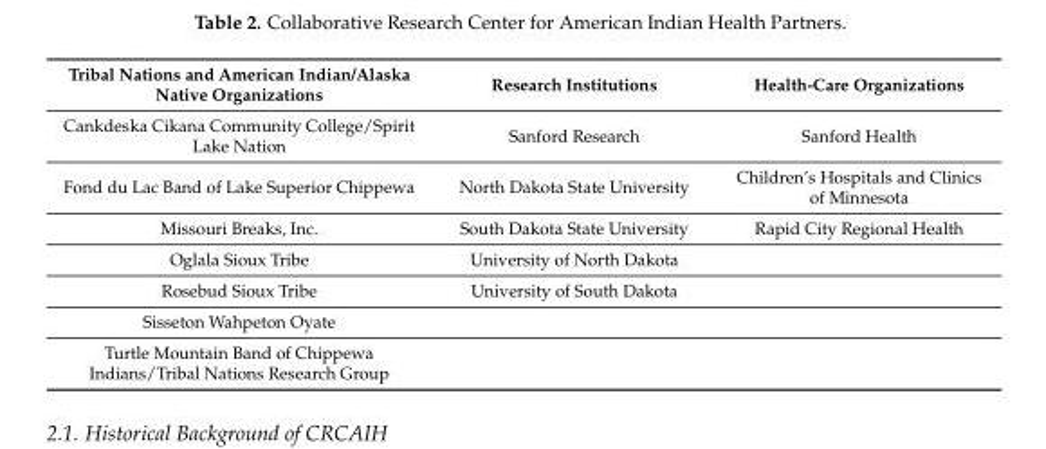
<table><thead><tr><td>Tribal Nations and American Indian/Alaska Native Organizations</td><td>Research Institutions</td><td>Health-Care Organizations</td></tr></thead><tbody><tr><td>Cankdeska Cikana Community College/Spirit Lake Nation</td><td>Sanford Research</td><td>Sanford Health</td></tr><tr><td>Fond du Lac Band of Lake Superior Chippewa</td><td>North Dakota State University</td><td>Children’s Hospitals and Clinics of Minnesota</td></tr><tr><td>Missouri Breaks, Inc.</td><td>South Dakota State University</td><td>Rapid City Regional Health</td></tr><tr><td>Oglala Sioux Tribe</td><td>University of North Dakota</td><td></td></tr><tr><td>Rosebud Sioux Tribe</td><td>University of South Dakota</td><td></td></tr><tr><td colspan="3">Sisseton Wahpeton Oyate</td></tr><tr><td>Turtle Mountain Band of Chippewa Indians/Tribal Nations Research Group</td><td></td><td></td></tr></tbody></table>